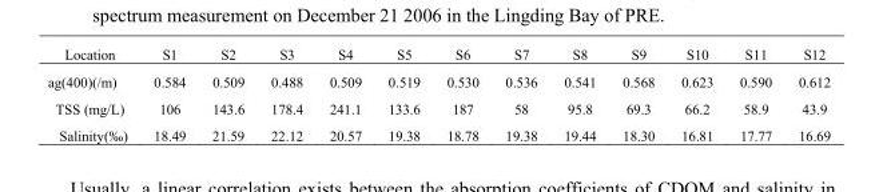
<table><thead><tr><td>Location</td><td>S1</td><td>S2</td><td>S3</td><td>S4</td><td>S5</td><td>S6</td><td>S7</td><td>S8</td><td>S9</td><td>S10</td><td>S11</td><td>S12</td></tr></thead><tbody><tr><td>ag(400)(/m)</td><td>0.584</td><td>0.509</td><td>0.488</td><td>0.509</td><td>0.519</td><td>0.530</td><td>0.536</td><td>0.541</td><td>0.568</td><td>0.623</td><td>0.590</td><td>0.612</td></tr><tr><td>TSS (mg/L)</td><td>106</td><td>143.6</td><td>178.4</td><td>241.1</td><td>133.6</td><td>187</td><td>58</td><td>95.8</td><td>69.3</td><td>66.2</td><td>58.9</td><td>43.9</td></tr><tr><td>Salinity(‰)</td><td>18.49</td><td>21.59</td><td>22.12</td><td>20.57</td><td>19.38</td><td>18.78</td><td>19.38</td><td>19.44</td><td>18.30</td><td>16.81</td><td>17.77</td><td>16.69</td></tr></tbody></table>